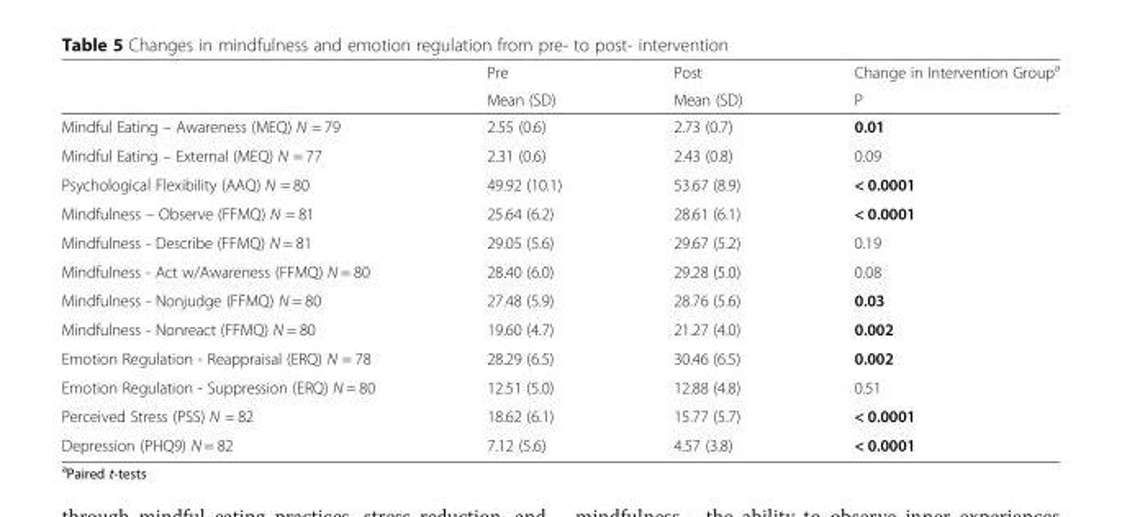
<table><thead><tr><td rowspan="2"></td><td rowspan="2">Pre Mean (SD)</td><td rowspan="2">Post Mean (SD)</td><td rowspan="2">Change in Intervention Group<sup>a</sup> P</td></tr><tr></tr></thead><tbody><tr><td>Mindful Eating – Awareness (MEQ) N = 79</td><td>2.55 (0.6)</td><td>2.73 (0.7)</td><td>0.01</td></tr><tr><td>Mindful Eating – External (MEQ) N = 77</td><td>2.31 (0.6)</td><td>2.43 (0.8)</td><td>0.09</td></tr><tr><td>Psychological Flexibility (AAQ) N = 80</td><td>49.92 (10.1)</td><td>53.67 (8.9)</td><td>&lt; 0.0001</td></tr><tr><td>Mindfulness – Observe (FFMQ) N = 81</td><td>25.64 (6.2)</td><td>28.61 (6.1)</td><td>&lt; 0.0001</td></tr><tr><td>Mindfulness - Describe (FFMQ) N = 81</td><td>29.05 (5.6)</td><td>29.67 (5.2)</td><td>0.19</td></tr><tr><td>Mindfulness - Act w/Awareness (FFMQ) N = 80</td><td>28.40 (6.0)</td><td>29.28 (5.0)</td><td>0.08</td></tr><tr><td>Mindfulness - Nonjudge (FFMQ) N = 80</td><td>27.48 (5.9)</td><td>28.76 (5.6)</td><td>0.03</td></tr><tr><td>Mindfulness - Nonreact (FFMQ) N = 80</td><td>19.60 (4.7)</td><td>21.27 (4.0)</td><td>0.002</td></tr><tr><td>Emotion Regulation - Reappraisal (ERQ) N = 78</td><td>28.29 (6.5)</td><td>30.46 (6.5)</td><td>0.002</td></tr><tr><td>Emotion Regulation - Suppression (ERQ) N = 80</td><td>12.51 (5.0)</td><td>12.88 (4.8)</td><td>0.51</td></tr><tr><td>Perceived Stress (PSS) N = 82</td><td>18.62 (6.1)</td><td>15.77 (5.7)</td><td>&lt; 0.0001</td></tr><tr><td>Depression (PHQ9) N = 82</td><td>7.12 (5.6)</td><td>4.57 (3.8)</td><td>&lt; 0.0001</td></tr></tbody></table>